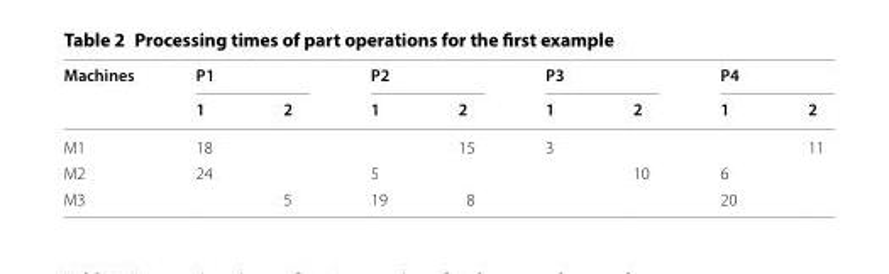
<table><thead><tr><td rowspan="2">Machines</td><td colspan="2">P1</td><td colspan="2">P2</td><td colspan="2">P3</td><td colspan="2">P4</td></tr><tr><td>1</td><td>2</td><td>1</td><td>2</td><td>1</td><td>2</td><td>1</td><td>2</td></tr></thead><tbody><tr><td>M1</td><td>18</td><td></td><td></td><td>15</td><td>3</td><td></td><td></td><td>11</td></tr><tr><td>M2</td><td>24</td><td></td><td>5</td><td></td><td></td><td>10</td><td>6</td><td></td></tr><tr><td>M3</td><td></td><td>5</td><td>19</td><td>8</td><td></td><td></td><td>20</td><td></td></tr></tbody></table>